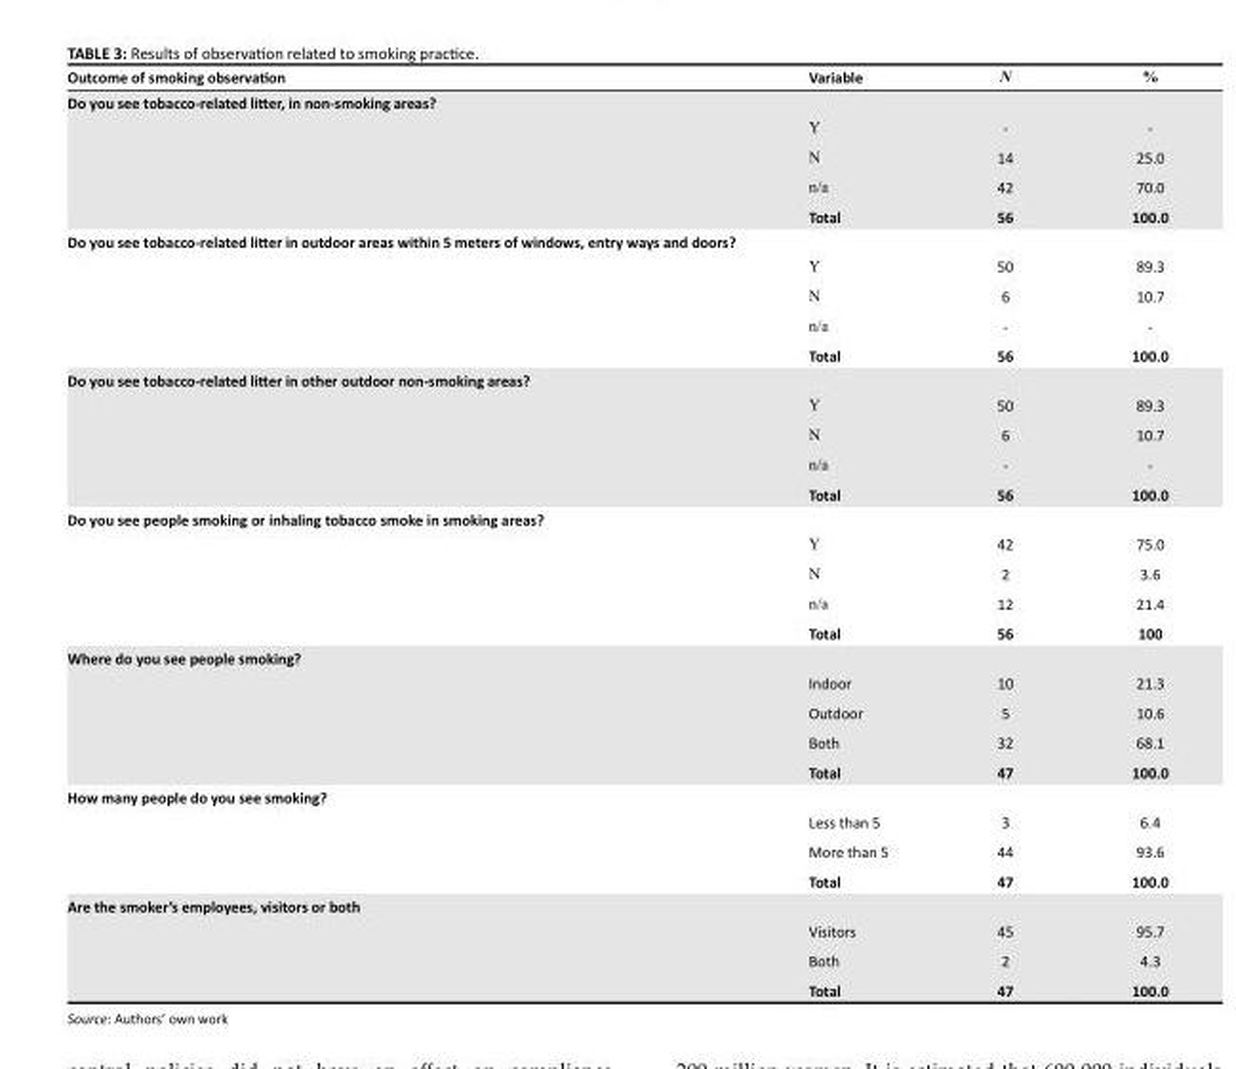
<table><thead><tr><td>Outcome of smoking observation</td><td>Variable</td><td>N</td><td>%</td></tr></thead><tbody><tr><td colspan="4">Do you see tobacco-related litter, in non-smoking areas?</td></tr><tr><td></td><td>Y</td><td>-</td><td>-</td></tr><tr><td></td><td>N</td><td>14</td><td>25.0</td></tr><tr><td></td><td>n/a</td><td>42</td><td>70.0</td></tr><tr><td></td><td>Total</td><td>56</td><td>100.0</td></tr><tr><td colspan="4">Do you see tobacco-related litter in outdoor areas within 5 meters of windows, entry ways and doors?</td></tr><tr><td></td><td>Y</td><td>50</td><td>89.3</td></tr><tr><td></td><td>N</td><td>6</td><td>10.7</td></tr><tr><td></td><td>n/a</td><td>-</td><td>-</td></tr><tr><td></td><td>Total</td><td>56</td><td>100.0</td></tr><tr><td colspan="4">Do you see tobacco-related litter in other outdoor non-smoking areas?</td></tr><tr><td></td><td>Y</td><td>50</td><td>89.3</td></tr><tr><td></td><td>N</td><td>6</td><td>10.7</td></tr><tr><td></td><td>n/a</td><td>-</td><td>-</td></tr><tr><td></td><td>Total</td><td>56</td><td>100.0</td></tr><tr><td colspan="4">Do you see people smoking or inhaling tobacco smoke in smoking areas?</td></tr><tr><td></td><td>Y</td><td>42</td><td>75.0</td></tr><tr><td></td><td>N</td><td>2</td><td>3.6</td></tr><tr><td></td><td>n/a</td><td>12</td><td>21.4</td></tr><tr><td></td><td>Total</td><td>56</td><td>100</td></tr><tr><td colspan="4">Where do you see people smoking?</td></tr><tr><td></td><td>Indoor</td><td>10</td><td>21.3</td></tr><tr><td></td><td>Outdoor</td><td>5</td><td>10.6</td></tr><tr><td></td><td>Both</td><td>32</td><td>68.1</td></tr><tr><td></td><td>Total</td><td>47</td><td>100.0</td></tr><tr><td colspan="4">How many people do you see smoking?</td></tr><tr><td></td><td>Less than 5</td><td>3</td><td>6.4</td></tr><tr><td></td><td>More than 5</td><td>44</td><td>93.6</td></tr><tr><td></td><td>Total</td><td>47</td><td>100.0</td></tr><tr><td colspan="4">Are the smoker’s employees, visitors or both</td></tr><tr><td></td><td>Visitors</td><td>45</td><td>95.7</td></tr><tr><td></td><td>Both</td><td>2</td><td>4.3</td></tr><tr><td></td><td>Total</td><td>47</td><td>100.0</td></tr></tbody></table>